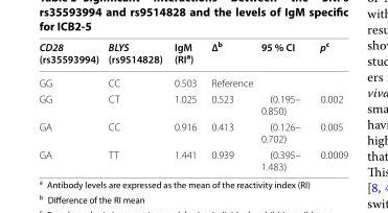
<table><thead><tr><td>CD28 (rs35593994)</td><td>BLYS (rs9514828)</td><td>IgM (RI<sup>a</sup>)</td><td>∆<sup>b</sup></td><td>95 % CI</td><td>p<sup>c</sup></td></tr></thead><tbody><tr><td>GG</td><td>CC</td><td>0.503</td><td>Reference</td><td></td><td></td></tr><tr><td>GG</td><td>CT</td><td>1.025</td><td>0.523</td><td>(0.195– 0.850)</td><td>0.002</td></tr><tr><td>GA</td><td>CC</td><td>0.916</td><td>0.413</td><td>(0.126– 0.702)</td><td>0.005</td></tr><tr><td>GA</td><td>TT</td><td>1.441</td><td>0.939</td><td>(0.395– 1.483)</td><td>0.0009</td></tr></tbody></table>